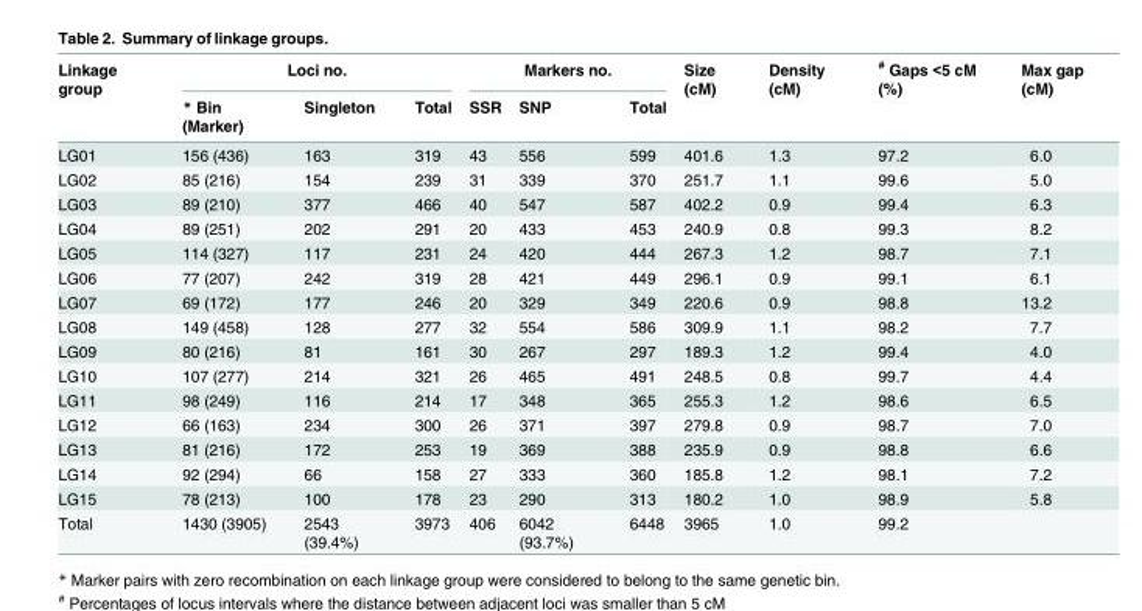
<table><thead><tr><td rowspan="2">Linkage group</td><td colspan="3">Loci no.</td><td colspan="3">Markers no.</td><td rowspan="2">Size (cM)</td><td rowspan="2">Density (cM)</td><td rowspan="2"><sup>#</sup> Gaps &lt;5 cM (%)</td><td rowspan="2">Max gap (cM)</td></tr><tr><td>* Bin (Marker)</td><td>Singleton</td><td>Total</td><td>SSR</td><td>SNP</td><td>Total</td></tr></thead><tbody><tr><td>LG01</td><td>156 (436)</td><td>163</td><td>319</td><td>43</td><td>556</td><td>599</td><td>401.6</td><td>1.3</td><td>97.2</td><td>6.0</td></tr><tr><td>LG02</td><td>85 (216)</td><td>154</td><td>239</td><td>31</td><td>339</td><td>370</td><td>251.7</td><td>1.1</td><td>99.6</td><td>5.0</td></tr><tr><td>LG03</td><td>89 (210)</td><td>377</td><td>466</td><td>40</td><td>547</td><td>587</td><td>402.2</td><td>0.9</td><td>99.4</td><td>6.3</td></tr><tr><td>LG04</td><td>89 (251)</td><td>202</td><td>291</td><td>20</td><td>433</td><td>453</td><td>240.9</td><td>0.8</td><td>99.3</td><td>8.2</td></tr><tr><td>LG05</td><td>114 (327)</td><td>117</td><td>231</td><td>24</td><td>420</td><td>444</td><td>267.3</td><td>1.2</td><td>98.7</td><td>7.1</td></tr><tr><td>LG06</td><td>77 (207)</td><td>242</td><td>319</td><td>28</td><td>421</td><td>449</td><td>296.1</td><td>0.9</td><td>99.1</td><td>6.1</td></tr><tr><td>LG07</td><td>69 (172)</td><td>177</td><td>246</td><td>20</td><td>329</td><td>349</td><td>220.6</td><td>0.9</td><td>98.8</td><td>13.2</td></tr><tr><td>LG08</td><td>149 (458)</td><td>128</td><td>277</td><td>32</td><td>554</td><td>586</td><td>309.9</td><td>1.1</td><td>98.2</td><td>7.7</td></tr><tr><td>LG09</td><td>80 (216)</td><td>81</td><td>161</td><td>30</td><td>267</td><td>297</td><td>189.3</td><td>1.2</td><td>99.4</td><td>4.0</td></tr><tr><td>LG10</td><td>107 (277)</td><td>214</td><td>321</td><td>26</td><td>465</td><td>491</td><td>248.5</td><td>0.8</td><td>99.7</td><td>4.4</td></tr><tr><td>LG11</td><td>98 (249)</td><td>116</td><td>214</td><td>17</td><td>348</td><td>365</td><td>255.3</td><td>1.2</td><td>98.6</td><td>6.5</td></tr><tr><td>LG12</td><td>66 (163)</td><td>234</td><td>300</td><td>26</td><td>371</td><td>397</td><td>279.8</td><td>0.9</td><td>98.7</td><td>7.0</td></tr><tr><td>LG13</td><td>81 (216)</td><td>172</td><td>253</td><td>19</td><td>369</td><td>388</td><td>235.9</td><td>0.9</td><td>98.8</td><td>6.6</td></tr><tr><td>LG14</td><td>92 (294)</td><td>66</td><td>158</td><td>27</td><td>333</td><td>360</td><td>185.8</td><td>1.2</td><td>98.1</td><td>7.2</td></tr><tr><td>LG15</td><td>78 (213)</td><td>100</td><td>178</td><td>23</td><td>290</td><td>313</td><td>180.2</td><td>1.0</td><td>98.9</td><td>5.8</td></tr><tr><td>Total</td><td>1430 (3905)</td><td>2543 (39.4%)</td><td>3973</td><td>406</td><td>6042 (93.7%)</td><td>6448</td><td>3965</td><td>1.0</td><td>99.2</td><td></td></tr></tbody></table>